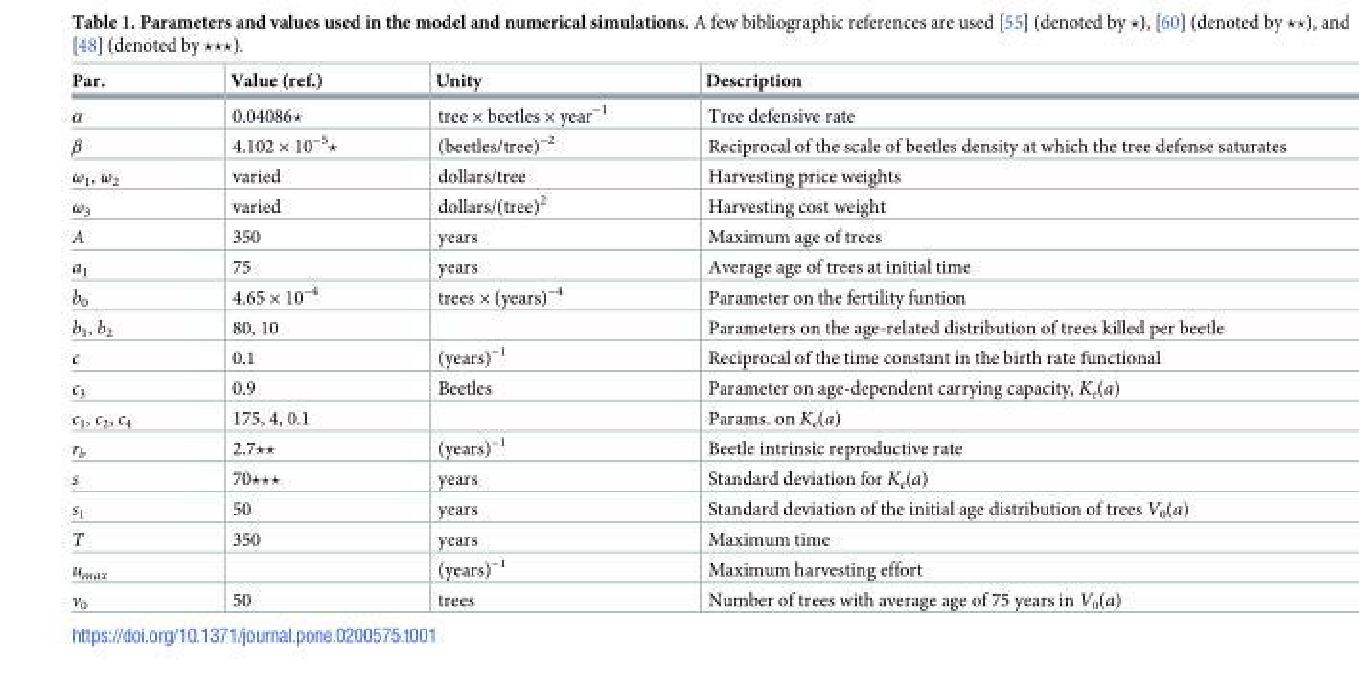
<table><thead><tr><td>Par.</td><td>Value (ref.)</td><td>Unity</td><td>Description</td></tr></thead><tbody><tr><td>α</td><td>0.04086⋆</td><td>tree × beetles × year<sup>−1</sup></td><td>Tree defensive rate</td></tr><tr><td>β</td><td>4.102 × 10<sup>−5</sup>⋆</td><td>(beetles/tree)<sup>−2</sup></td><td>Reciprocal of the scale of beetles density at which the tree defense saturates</td></tr><tr><td>ω<sub>1</sub>, ω<sub>2</sub></td><td>varied</td><td>dollars/tree</td><td>Harvesting price weights</td></tr><tr><td>ω<sub>3</sub></td><td>varied</td><td>dollars/(tree)<sup>2</sup></td><td>Harvesting cost weight</td></tr><tr><td>A</td><td>350</td><td>years</td><td>Maximum age of trees</td></tr><tr><td>a<sub>1</sub></td><td>75</td><td>years</td><td>Average age of trees at initial time</td></tr><tr><td>b<sub>0</sub></td><td>4.65 × 10<sup>−4</sup></td><td>trees × (years)<sup>−4</sup></td><td>Parameter on the fertility funtion</td></tr><tr><td>b<sub>1</sub>, b<sub>2</sub></td><td>80, 10</td><td></td><td>Parameters on the age-related distribution of trees killed per beetle</td></tr><tr><td>c</td><td>0.1</td><td>(years)<sup>−1</sup></td><td>Reciprocal of the time constant in the birth rate functional</td></tr><tr><td>c<sub>3</sub></td><td>0.9</td><td>Beetles</td><td>Parameter on age-dependent carrying capacity, K<sub>e</sub>(a)</td></tr><tr><td>c<sub>1</sub>, c<sub>2</sub>, c<sub>4</sub></td><td>175, 4, 0.1</td><td></td><td>Params. on K<sub>e</sub>(a)</td></tr><tr><td>r<sub>b</sub></td><td>2.7⋆⋆</td><td>(years)<sup>−1</sup></td><td>Beetle intrinsic reproductive rate</td></tr><tr><td>s</td><td>70⋆⋆⋆</td><td>years</td><td>Standard deviation for K<sub>e</sub>(a)</td></tr><tr><td>s<sub>1</sub></td><td>50</td><td>years</td><td>Standard deviation of the initial age distribution of trees V<sub>0</sub>(a)</td></tr><tr><td>T</td><td>350</td><td>years</td><td>Maximum time</td></tr><tr><td>u<sub>max</sub></td><td></td><td>(years)<sup>−1</sup></td><td>Maximum harvesting effort</td></tr><tr><td>v<sub>0</sub></td><td>50</td><td>trees</td><td>Number of trees with average age of 75 years in V<sub>0</sub>(a)</td></tr></tbody></table>